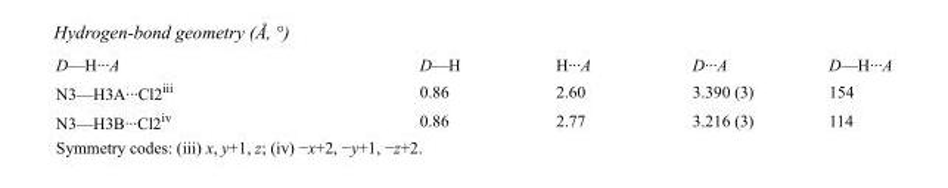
<table><tbody><tr><td>D—H···A</td><td>D—H</td><td>H···A</td><td>D···A</td><td>D—H···A</td></tr><tr><td>N3—H3A···Cl2<sup>iii</sup></td><td>0.86</td><td>2.60</td><td>3.390 (3)</td><td>154</td></tr><tr><td>N3—H3B···Cl2<sup>iv</sup></td><td>0.86</td><td>2.77</td><td>3.216 (3)</td><td>114</td></tr></tbody></table>